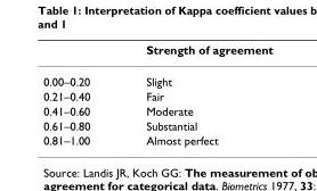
<table><thead><tr><td></td><td>Strength of agreement</td></tr></thead><tbody><tr><td>0.00–0.20</td><td>Slight</td></tr><tr><td>0.21–0.40</td><td>Fair</td></tr><tr><td>0.41–0.60</td><td>Moderate</td></tr><tr><td>0.61–0.80</td><td>Substantial</td></tr><tr><td>0.81–1.00</td><td>Almost perfect</td></tr></tbody></table>